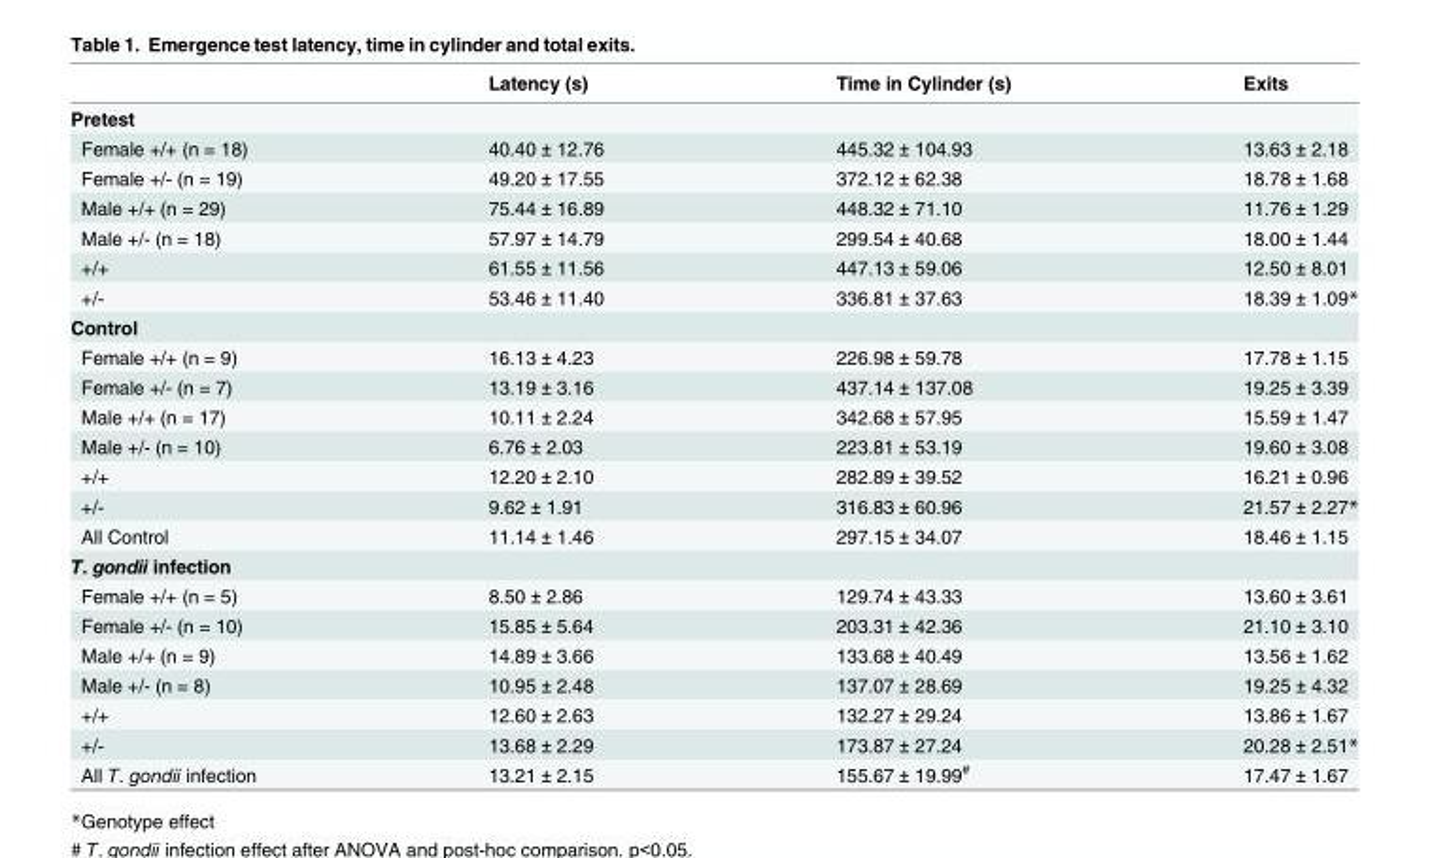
<table><thead><tr><td></td><td>Latency (s)</td><td>Time in Cylinder (s)</td><td>Exits</td></tr></thead><tbody><tr><td colspan="4">Pretest</td></tr><tr><td>Female +/+ (n = 18)</td><td>40.40 ± 12.76</td><td>445.32 ± 104.93</td><td>13.63 ± 2.18</td></tr><tr><td>Female +/- (n = 19)</td><td>49.20 ± 17.55</td><td>372.12 ± 62.38</td><td>18.78 ± 1.68</td></tr><tr><td>Male +/+ (n = 29)</td><td>75.44 ± 16.89</td><td>448.32 ± 71.10</td><td>11.76 ± 1.29</td></tr><tr><td>Male +/- (n = 18)</td><td>57.97 ± 14.79</td><td>299.54 ± 40.68</td><td>18.00 ± 1.44</td></tr><tr><td>+/+</td><td>61.55 ± 11.56</td><td>447.13 ± 59.06</td><td>12.50 ± 8.01</td></tr><tr><td>+/-</td><td>53.46 ± 11.40</td><td>336.81 ± 37.63</td><td>18.39 ± 1.09*</td></tr><tr><td colspan="4">Control</td></tr><tr><td>Female +/+ (n = 9)</td><td>16.13 ± 4.23</td><td>226.98 ± 59.78</td><td>17.78 ± 1.15</td></tr><tr><td>Female +/- (n = 7)</td><td>13.19 ± 3.16</td><td>437.14 ± 137.08</td><td>19.25 ± 3.39</td></tr><tr><td>Male +/+ (n = 17)</td><td>10.11 ± 2.24</td><td>342.68 ± 57.95</td><td>15.59 ± 1.47</td></tr><tr><td>Male +/- (n = 10)</td><td>6.76 ± 2.03</td><td>223.81 ± 53.19</td><td>19.60 ± 3.08</td></tr><tr><td>+/+</td><td>12.20 ± 2.10</td><td>282.89 ± 39.52</td><td>16.21 ± 0.96</td></tr><tr><td>+/-</td><td>9.62 ± 1.91</td><td>316.83 ± 60.96</td><td>21.57 ± 2.27*</td></tr><tr><td>All Control</td><td>11.14 ± 1.46</td><td>297.15 ± 34.07</td><td>18.46 ± 1.15</td></tr><tr><td colspan="4">T. gondii infection</td></tr><tr><td>Female +/+ (n = 5)</td><td>8.50 ± 2.86</td><td>129.74 ± 43.33</td><td>13.60 ± 3.61</td></tr><tr><td>Female +/- (n = 10)</td><td>15.85 ± 5.64</td><td>203.31 ± 42.36</td><td>21.10 ± 3.10</td></tr><tr><td>Male +/+ (n = 9)</td><td>14.89 ± 3.66</td><td>133.68 ± 40.49</td><td>13.56 ± 1.62</td></tr><tr><td>Male +/- (n = 8)</td><td>10.95 ± 2.48</td><td>137.07 ± 28.69</td><td>19.25 ± 4.32</td></tr><tr><td>+/+</td><td>12.60 ± 2.63</td><td>132.27 ± 29.24</td><td>13.86 ± 1.67</td></tr><tr><td>+/-</td><td>13.68 ± 2.29</td><td>173.87 ± 27.24</td><td>20.28 ± 2.51*</td></tr><tr><td>All T. gondii infection</td><td>13.21 ± 2.15</td><td>155.67 ± 19.99<sup>#</sup></td><td>17.47 ± 1.67</td></tr></tbody></table>